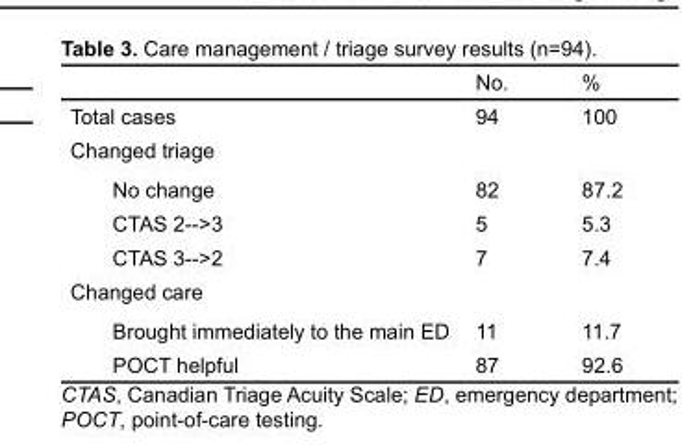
<table><thead><tr><td></td><td>No.</td><td>%</td></tr></thead><tbody><tr><td>Total cases</td><td>94</td><td>100</td></tr><tr><td colspan="3">Changed triage</td></tr><tr><td>No change</td><td>82</td><td>87.2</td></tr><tr><td>CTAS 2--&gt;3</td><td>5</td><td>5.3</td></tr><tr><td>CTAS 3--&gt;2</td><td>7</td><td>7.4</td></tr><tr><td colspan="3">Changed care</td></tr><tr><td>Brought immediately to the main ED</td><td>11</td><td>11.7</td></tr><tr><td>POCT helpful</td><td>87</td><td>92.6</td></tr></tbody></table>